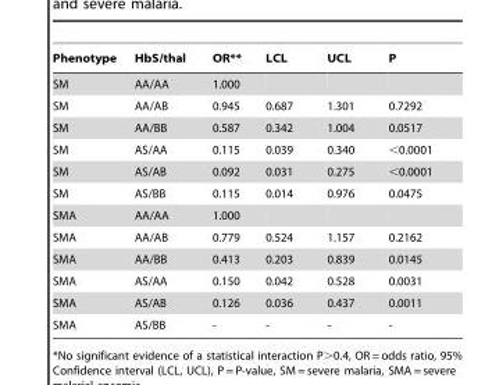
<table><thead><tr><td>Phenotype</td><td>HbS/thal</td><td>OR**</td><td>LCL</td><td>UCL</td><td>P</td></tr></thead><tbody><tr><td>SM</td><td>AA/AA</td><td>1.000</td><td></td><td></td><td></td></tr><tr><td>SM</td><td>AA/AB</td><td>0.945</td><td>0.687</td><td>1.301</td><td>0.7292</td></tr><tr><td>SM</td><td>AA/BB</td><td>0.587</td><td>0.342</td><td>1.004</td><td>0.0517</td></tr><tr><td>SM</td><td>AS/AA</td><td>0.115</td><td>0.039</td><td>0.340</td><td>&lt;0.0001</td></tr><tr><td>SM</td><td>AS/AB</td><td>0.092</td><td>0.031</td><td>0.275</td><td>&lt;0.0001</td></tr><tr><td>SM</td><td>AS/BB</td><td>0.115</td><td>0.014</td><td>0.976</td><td>0.0475</td></tr><tr><td>SMA</td><td>AA/AA</td><td>1.000</td><td></td><td></td><td></td></tr><tr><td>SMA</td><td>AA/AB</td><td>0.779</td><td>0.524</td><td>1.157</td><td>0.2162</td></tr><tr><td>SMA</td><td>AA/BB</td><td>0.413</td><td>0.203</td><td>0.839</td><td>0.0145</td></tr><tr><td>SMA</td><td>AS/AA</td><td>0.150</td><td>0.042</td><td>0.528</td><td>0.0031</td></tr><tr><td>SMA</td><td>AS/AB</td><td>0.126</td><td>0.036</td><td>0.437</td><td>0.0011</td></tr><tr><td>SMA</td><td>AS/BB</td><td>-</td><td>-</td><td>-</td><td>-</td></tr></tbody></table>